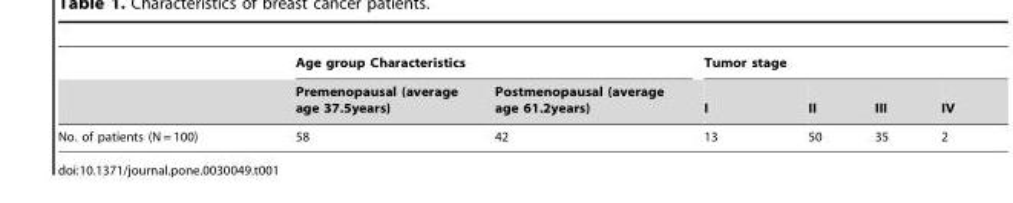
<table><thead><tr><td rowspan="2"></td><td colspan="2">Age group Characteristics</td><td colspan="4">Tumor stage</td></tr><tr><td>Premenopausal (average age 37.5years)</td><td>Postmenopausal (average age 61.2years)</td><td>I</td><td>II</td><td>III</td><td>IV</td></tr></thead><tbody><tr><td>No. of patients (N = 100)</td><td>58</td><td>42</td><td>13</td><td>50</td><td>35</td><td>2</td></tr></tbody></table>